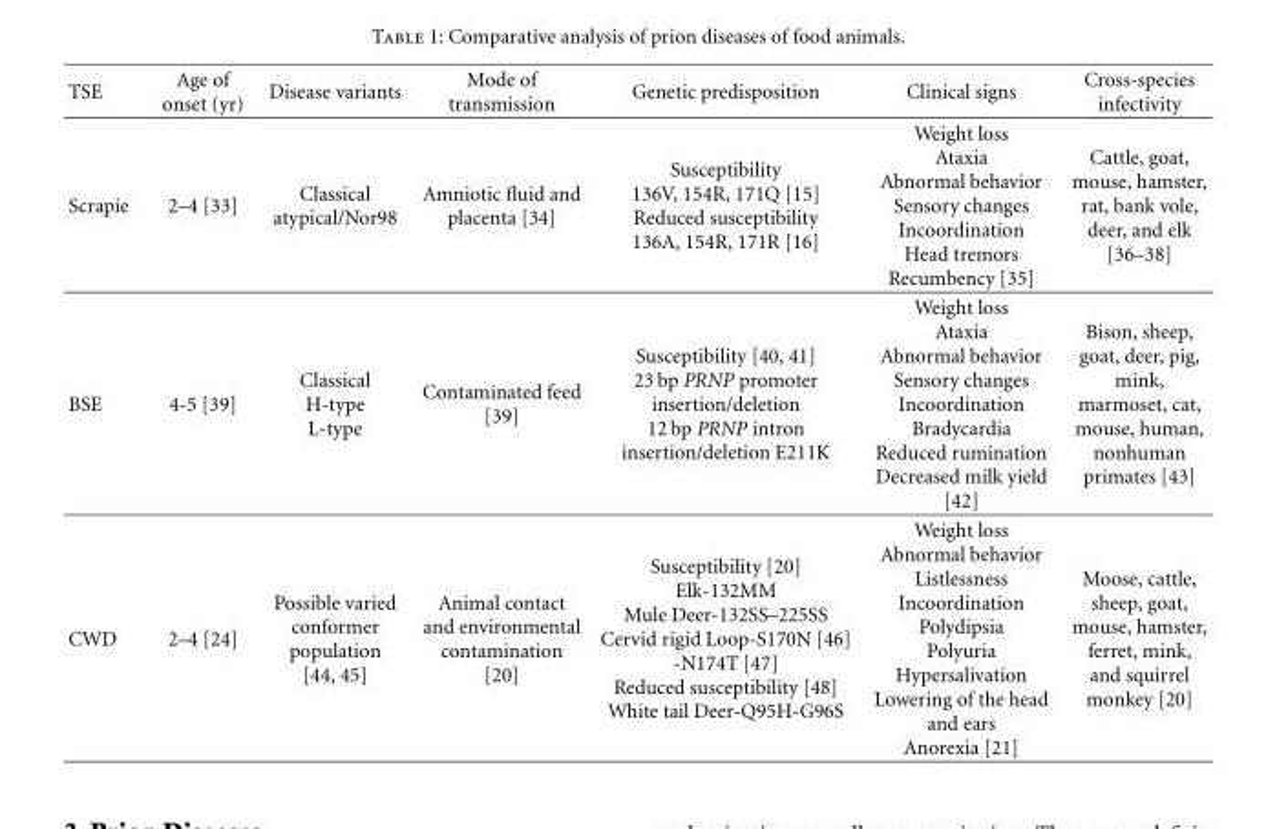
<table><thead><tr><td>TSE</td><td>Age of onset (yr)</td><td>Disease variants</td><td>Mode of transmission</td><td>Genetic predisposition</td><td>Clinical signs</td><td>Cross-species infectivity</td></tr></thead><tbody><tr><td>Scrapie</td><td>2–4 [33]</td><td>Classical atypical/Nor98</td><td>Amniotic fluid and placenta [34]</td><td>Susceptibility 136V, 154R, 171Q [15] Reduced susceptibility 136A, 154R, 171R [16]</td><td>Weight loss Ataxia Abnormal behavior Sensory changes Incoordination Head tremors Recumbency [35]</td><td>Cattle, goat, mouse, hamster, rat, bank vole, deer, and elk [36–38]</td></tr><tr><td>BSE</td><td>4-5 [39]</td><td>Classical H-type L-type</td><td>Contaminated feed [39]</td><td>Susceptibility [40, 41] 23 bp PRNP promoter insertion/deletion 12 bp PRNP intron insertion/deletion E211K</td><td>Weight loss Ataxia Abnormal behavior Sensory changes Incoordination Bradycardia Reduced rumination Decreased milk yield [42]</td><td>Bison, sheep, goat, deer, pig, mink, marmoset, cat, mouse, human, nonhuman primates [43]</td></tr><tr><td>CWD</td><td>2–4 [24]</td><td>Possible varied conformer population [44, 45]</td><td>Animal contact and environmental contamination [20]</td><td>Susceptibility [20] Elk-132MM Mule Deer-132SS–225SS Cervid rigid Loop-S170N [46] -N174T [47] Reduced susceptibility [48] White tail Deer-Q95H-G96S</td><td>Weight loss Abnormal behavior Listlessness Incoordination Polydipsia Polyuria Hypersalivation Lowering of the head and ears Anorexia [21]</td><td>Moose, cattle, sheep, goat, mouse, hamster, ferret, mink, and squirrel monkey [20]</td></tr></tbody></table>